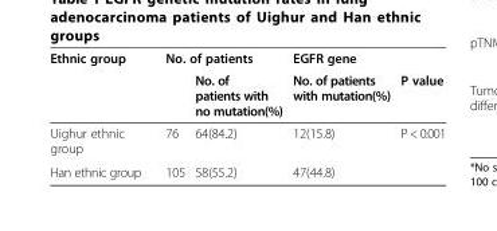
<table><thead><tr><td rowspan="2">Ethnic group</td><td colspan="2">No. of patients</td><td colspan="2">EGFR gene</td></tr><tr><td></td><td>No. of patients with no mutation(%)</td><td>No. of patients with mutation(%)</td><td>P value</td></tr></thead><tbody><tr><td>Uighur ethnic group</td><td>76</td><td>64(84.2)</td><td>12(15.8)</td><td>P &lt; 0.001</td></tr><tr><td>Han ethnic group</td><td>105</td><td>58(55.2)</td><td>47(44.8)</td><td></td></tr></tbody></table>